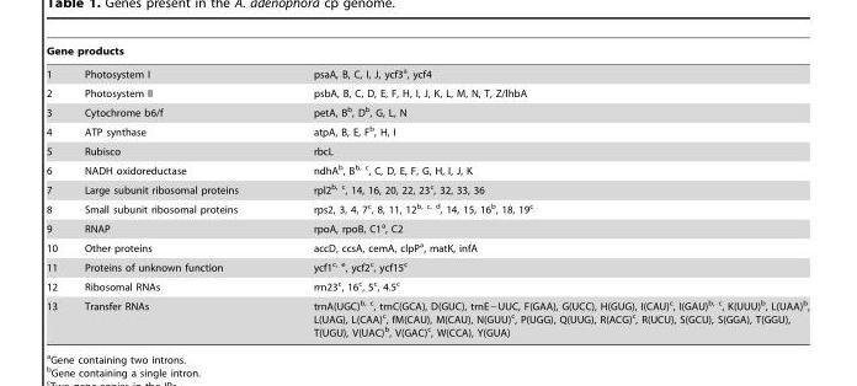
<table><thead><tr><td colspan="3">Gene products</td></tr><tr><td>1</td><td>Photosystem I</td><td>psaA, B, C, I, J, ycf3<sup>a</sup>, ycf4</td></tr></thead><tbody><tr><td>2</td><td>Photosystem II</td><td>psbA, B, C, D, E, F, H, I, J, K, L, M, N, T, Z/lhbA</td></tr><tr><td>3</td><td>Cytochrome b6/f</td><td>petA, B<sup>b</sup>, D<sup>b</sup>, G, L, N</td></tr><tr><td>4</td><td>ATP synthase</td><td>atpA, B, E, F<sup>b</sup>, H, I</td></tr><tr><td>5</td><td>Rubisco</td><td>rbcL</td></tr><tr><td>6</td><td>NADH oxidoreductase</td><td>ndhA<sup>b</sup>, Bb, c, C, D, E, F, G, H, I, J, K</td></tr><tr><td>7</td><td>Large subunit ribosomal proteins</td><td>rpl2b, c, 14, 16, 20, 22, 23<sup>c</sup>, 32, 33, 36</td></tr><tr><td>8</td><td>Small subunit ribosomal proteins</td><td>rps2, 3, 4, 7<sup>c</sup>, 8, 11, 12b, c, d, 14, 15, 16<sup>b</sup>, 18, 19<sup>c</sup></td></tr><tr><td>9</td><td>RNAP</td><td>rpoA, rpoB, C1<sup>a</sup>, C2</td></tr><tr><td>10</td><td>Other proteins</td><td>accD, ccsA, cemA, clpP<sup>a</sup>, matK, infA</td></tr><tr><td>11</td><td>Proteins of unknown function</td><td>ycf1c, e, ycf2<sup>c</sup>, ycf15<sup>c</sup></td></tr><tr><td>12</td><td>Ribosomal RNAs</td><td>rrn23<sup>c</sup>, 16<sup>c</sup>, 5<sup>c</sup>, 4.5<sup>c</sup></td></tr><tr><td>13</td><td>Transfer RNAs</td><td>trnA(UGC)b, c, trnC(GCA), D(GUC), trnE−UUC, F(GAA), G(UCC), H(GUG), I(CAU)<sup>c</sup>, I(GAU)b, c, K(UUU)<sup>b</sup>, L(UAA)<sup>b</sup>, L(UAG), L(CAA)<sup>c</sup>, fM(CAU), M(CAU), N(GUU)<sup>c</sup>, P(UGG), Q(UUG), R(ACG)<sup>c</sup>, R(UCU), S(GCU), S(GGA), T(GGU), T(UGU), V(UAC)<sup>b</sup>, V(GAC)<sup>c</sup>, W(CCA), Y(GUA)</td></tr></tbody></table>